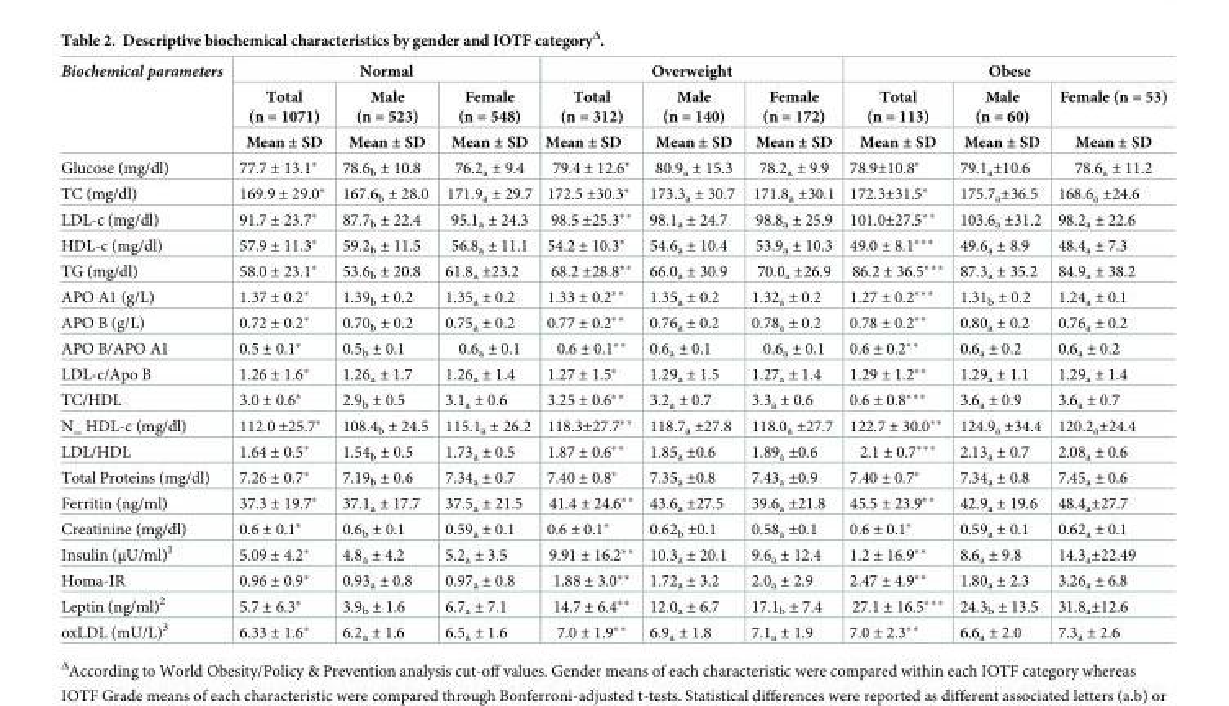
<table><thead><tr><td rowspan="3">Biochemical parameters</td><td colspan="3">Normal</td><td colspan="3">Overweight</td><td colspan="3">Obese</td></tr><tr><td rowspan="2">Total (n = 1071) Mean ± SD</td><td rowspan="2">Male (n = 523) Mean ± SD</td><td rowspan="2">Female (n = 548) Mean ± SD</td><td rowspan="2">Total (n = 312) Mean ± SD</td><td rowspan="2">Male (n = 140) Mean ± SD</td><td rowspan="2">Female (n = 172) Mean ± SD</td><td rowspan="2">Total (n = 113) Mean ± SD</td><td rowspan="2">Male (n = 60) Mean ± SD</td><td rowspan="2">Female (n = 53) Mean ± SD</td></tr><tr></tr></thead><tbody><tr><td>Glucose (mg/dl)</td><td>77.7 ± 13.1*</td><td>78.6<sub>b</sub> ± 10.8</td><td>76.2<sub>a</sub> ± 9.4</td><td>79.4 ± 12.6*</td><td>80.9<sub>a</sub> ± 15.3</td><td>78.2<sub>a</sub> ± 9.9</td><td>78.9±10.8*</td><td>79.1<sub>a</sub>±10.6</td><td>78.6<sub>a</sub> ± 11.2</td></tr><tr><td>TC (mg/dl)</td><td>169.9 ± 29.0*</td><td>167.6<sub>b</sub> ± 28.0</td><td>171.9<sub>a</sub> ± 29.7</td><td>172.5 ±30.3*</td><td>173.3<sub>a</sub> ± 30.7</td><td>171.8<sub>a</sub> ±30.1</td><td>172.3±31.5*</td><td>175.7<sub>a</sub>±36.5</td><td>168.6<sub>a</sub> ±24.6</td></tr><tr><td>LDL-c (mg/dl)</td><td>91.7 ± 23.7*</td><td>87.7<sub>b</sub> ± 22.4</td><td>95.1<sub>a</sub> ± 24.3</td><td>98.5 ±25.3**</td><td>98.1<sub>a</sub> ± 24.7</td><td>98.8<sub>a</sub> ± 25.9</td><td>101.0±27.5**</td><td>103.6<sub>a</sub> ±31.2</td><td>98.2<sub>a</sub> ± 22.6</td></tr><tr><td>HDL-c (mg/dl)</td><td>57.9 ± 11.3*</td><td>59.2<sub>b</sub> ± 11.5</td><td>56.8<sub>a</sub> ± 11.1</td><td>54.2 ± 10.3*</td><td>54.6<sub>a</sub> ± 10.4</td><td>53.9<sub>a</sub> ± 10.3</td><td>49.0 ± 8.1***</td><td>49.6<sub>a</sub> ± 8.9</td><td>48.4<sub>a</sub> ± 7.3</td></tr><tr><td>TG (mg/dl)</td><td>58.0 ± 23.1*</td><td>53.6<sub>b</sub> ± 20.8</td><td>61.8<sub>a</sub> ±23.2</td><td>68.2 ±28.8**</td><td>66.0<sub>a</sub> ± 30.9</td><td>70.0<sub>a</sub> ±26.9</td><td>86.2 ± 36.5***</td><td>87.3<sub>a</sub> ± 35.2</td><td>84.9<sub>a</sub> ± 38.2</td></tr><tr><td>APO A1 (g/L)</td><td>1.37 ± 0.2*</td><td>1.39<sub>b</sub> ± 0.2</td><td>1.35<sub>a</sub> ± 0.2</td><td>1.33 ± 0.2**</td><td>1.35<sub>a</sub> ± 0.2</td><td>1.32<sub>a</sub> ± 0.2</td><td>1.27 ± 0.2***</td><td>1.31<sub>b</sub> ± 0.2</td><td>1.24<sub>a</sub> ± 0.1</td></tr><tr><td>APO B (g/L)</td><td>0.72 ± 0.2*</td><td>0.70<sub>b</sub> ± 0.2</td><td>0.75<sub>a</sub> ± 0.2</td><td>0.77 ± 0.2**</td><td>0.76<sub>a</sub> ± 0.2</td><td>0.78<sub>a</sub> ± 0.2</td><td>0.78 ± 0.2**</td><td>0.80<sub>a</sub> ± 0.2</td><td>0.76<sub>a</sub> ± 0.2</td></tr><tr><td>APO B/APO A1</td><td>0.5 ± 0.1*</td><td>0.5<sub>b</sub> ± 0.1</td><td>0.6<sub>a</sub> ± 0.1</td><td>0.6 ± 0.1**</td><td>0.6<sub>a</sub> ± 0.1</td><td>0.6<sub>a</sub> ± 0.1</td><td>0.6 ± 0.2**</td><td>0.6<sub>a</sub> ± 0.2</td><td>0.6<sub>a</sub> ± 0.2</td></tr><tr><td>LDL-c/Apo B</td><td>1.26 ± 1.6*</td><td>1.26<sub>a</sub> ± 1.7</td><td>1.26<sub>a</sub> ± 1.4</td><td>1.27 ± 1.5*</td><td>1.29<sub>a</sub> ± 1.5</td><td>1.27<sub>a</sub> ± 1.4</td><td>1.29 ± 1.2**</td><td>1.29<sub>a</sub> ± 1.1</td><td>1.29<sub>a</sub> ± 1.4</td></tr><tr><td>TC/HDL</td><td>3.0 ± 0.6*</td><td>2.9<sub>b</sub> ± 0.5</td><td>3.1<sub>a</sub> ± 0.6</td><td>3.25 ± 0.6**</td><td>3.2<sub>a</sub> ± 0.7</td><td>3.3<sub>a</sub> ± 0.6</td><td>0.6 ± 0.8***</td><td>3.6<sub>a</sub> ± 0.9</td><td>3.6<sub>a</sub> ± 0.7</td></tr><tr><td>N_ HDL-c (mg/dl)</td><td>112.0 ±25.7*</td><td>108.4<sub>b</sub> ± 24.5</td><td>115.1<sub>a</sub> ± 26.2</td><td>118.3±27.7**</td><td>118.7<sub>a</sub> ±27.8</td><td>118.0<sub>a</sub> ±27.7</td><td>122.7 ± 30.0**</td><td>124.9<sub>a</sub> ±34.4</td><td>120.2<sub>a</sub>±24.4</td></tr><tr><td>LDL/HDL</td><td>1.64 ± 0.5*</td><td>1.54<sub>b</sub> ± 0.5</td><td>1.73<sub>a</sub> ± 0.5</td><td>1.87 ± 0.6**</td><td>1.85<sub>a</sub> ±0.6</td><td>1.89<sub>a</sub> ±0.6</td><td>2.1 ± 0.7***</td><td>2.13<sub>a</sub> ± 0.7</td><td>2.08<sub>a</sub> ± 0.6</td></tr><tr><td>Total Proteins (mg/dl)</td><td>7.26 ± 0.7*</td><td>7.19<sub>b</sub> ± 0.6</td><td>7.34<sub>a</sub> ± 0.7</td><td>7.40 ± 0.8*</td><td>7.35<sub>a</sub> ±0.8</td><td>7.43<sub>a</sub> ±0.9</td><td>7.40 ± 0.7*</td><td>7.34<sub>a</sub> ± 0.8</td><td>7.45<sub>a</sub> ± 0.6</td></tr><tr><td>Ferritin (ng/ml)</td><td>37.3 ± 19.7*</td><td>37.1<sub>a</sub> ± 17.7</td><td>37.5<sub>a</sub> ± 21.5</td><td>41.4 ± 24.6**</td><td>43.6<sub>a</sub> ±27.5</td><td>39.6<sub>a</sub> ±21.8</td><td>45.5 ± 23.9**</td><td>42.9<sub>a</sub> ± 19.6</td><td>48.4<sub>a</sub>±27.7</td></tr><tr><td>Creatinine (mg/dl)</td><td>0.6 ± 0.1*</td><td>0.6<sub>b</sub> ± 0.1</td><td>0.59<sub>a</sub> ± 0.1</td><td>0.6 ± 0.1*</td><td>0.62<sub>b</sub> ±0.1</td><td>0.58<sub>a</sub> ±0.1</td><td>0.6 ± 0.1*</td><td>0.59<sub>a</sub> ± 0.1</td><td>0.62<sub>a</sub> ± 0.1</td></tr><tr><td>Insulin (μU/ml)<sup>1</sup></td><td>5.09 ± 4.2*</td><td>4.8<sub>a</sub> ± 4.2</td><td>5.2<sub>a</sub> ± 3.5</td><td>9.91 ± 16.2**</td><td>10.3<sub>a</sub> ± 20.1</td><td>9.6<sub>a</sub> ± 12.4</td><td>1.2 ± 16.9**</td><td>8.6<sub>a</sub> ± 9.8</td><td>14.3<sub>a</sub>±22.49</td></tr><tr><td>Homa-IR</td><td>0.96 ± 0.9*</td><td>0.93<sub>a</sub> ± 0.8</td><td>0.97<sub>a</sub> ± 0.8</td><td>1.88 ± 3.0**</td><td>1.72<sub>a</sub> ± 3.2</td><td>2.0<sub>a</sub> ± 2.9</td><td>2.47 ± 4.9**</td><td>1.80<sub>a</sub> ± 2.3</td><td>3.26<sub>a</sub> ± 6.8</td></tr><tr><td>Leptin (ng/ml)<sup>2</sup></td><td>5.7 ± 6.3*</td><td>3.9<sub>b</sub> ± 1.6</td><td>6.7<sub>a</sub> ± 7.1</td><td>14.7 ± 6.4**</td><td>12.0<sub>a</sub> ± 6.7</td><td>17.1<sub>b</sub> ± 7.4</td><td>27.1 ± 16.5***</td><td>24.3<sub>b</sub> ± 13.5</td><td>31.8<sub>a</sub>±12.6</td></tr><tr><td>oxLDL (mU/L)<sup>3</sup></td><td>6.33 ± 1.6*</td><td>6.2<sub>a</sub> ± 1.6</td><td>6.5<sub>a</sub> ± 1.6</td><td>7.0 ± 1.9**</td><td>6.9<sub>a</sub> ± 1.8</td><td>7.1<sub>a</sub> ± 1.9</td><td>7.0 ± 2.3**</td><td>6.6<sub>a</sub> ± 2.0</td><td>7.3<sub>a</sub> ± 2.6</td></tr></tbody></table>